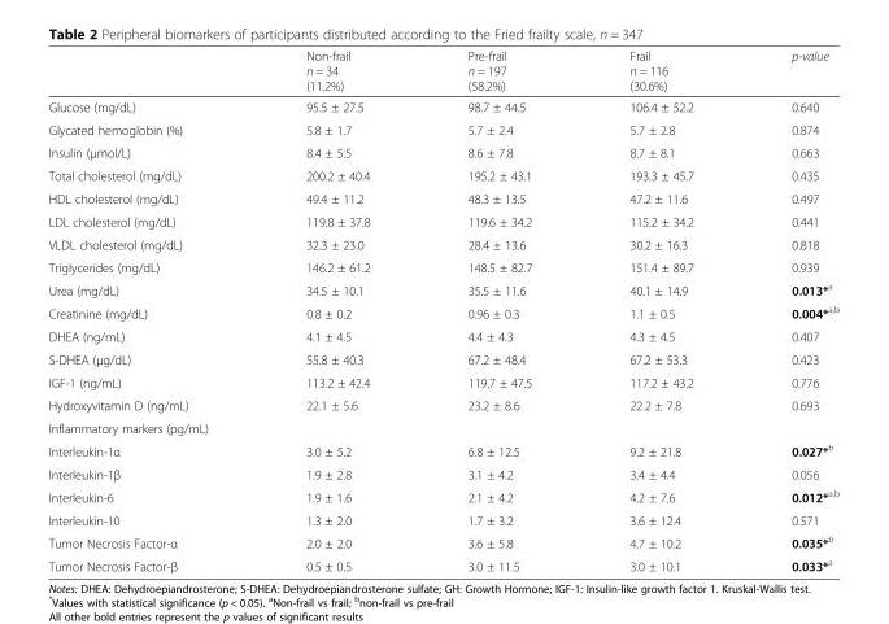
<table><thead><tr><td></td><td>Non-frail n = 34 (11.2%)</td><td>Pre-frail n = 197 (58.2%)</td><td>Frail n = 116 (30.6%)</td><td>p-value</td></tr></thead><tbody><tr><td>Glucose (mg/dL)</td><td>95.5 ± 27.5</td><td>98.7 ± 44.5</td><td>106.4 ± 52.2</td><td>0.640</td></tr><tr><td>Glycated hemoglobin (%)</td><td>5.8 ± 1.7</td><td>5.7 ± 2.4</td><td>5.7 ± 2.8</td><td>0.874</td></tr><tr><td>Insulin (μmol/L)</td><td>8.4 ± 5.5</td><td>8.6 ± 7.8</td><td>8.7 ± 8.1</td><td>0.663</td></tr><tr><td>Total cholesterol (mg/dL)</td><td>200.2 ± 40.4</td><td>195.2 ± 43.1</td><td>193.3 ± 45.7</td><td>0.435</td></tr><tr><td>HDL cholesterol (mg/dL)</td><td>49.4 ± 11.2</td><td>48.3 ± 13.5</td><td>47.2 ± 11.6</td><td>0.497</td></tr><tr><td>LDL cholesterol (mg/dL)</td><td>119.8 ± 37.8</td><td>119.6 ± 34.2</td><td>115.2 ± 34.2</td><td>0.441</td></tr><tr><td>VLDL cholesterol (mg/dL)</td><td>32.3 ± 23.0</td><td>28.4 ± 13.6</td><td>30.2 ± 16.3</td><td>0.818</td></tr><tr><td>Triglycerides (mg/dL)</td><td>146.2 ± 61.2</td><td>148.5 ± 82.7</td><td>151.4 ± 89.7</td><td>0.939</td></tr><tr><td>Urea (mg/dL)</td><td>34.5 ± 10.1</td><td>35.5 ± 11.6</td><td>40.1 ± 14.9</td><td>0.013*<sup>a</sup></td></tr><tr><td>Creatinine (mg/dL)</td><td>0.8 ± 0.2</td><td>0.96 ± 0.3</td><td>1.1 ± 0.5</td><td>0.004*<sup>a,b</sup></td></tr><tr><td>DHEA (ng/mL)</td><td>4.1 ± 4.5</td><td>4.4 ± 4.3</td><td>4.3 ± 4.5</td><td>0.407</td></tr><tr><td>S-DHEA (μg/dL)</td><td>55.8 ± 40.3</td><td>67.2 ± 48.4</td><td>67.2 ± 53.3</td><td>0.423</td></tr><tr><td>IGF-1 (ng/mL)</td><td>113.2 ± 42.4</td><td>119.7 ± 47.5</td><td>117.2 ± 43.2</td><td>0.776</td></tr><tr><td>Hydroxyvitamin D (ng/mL)</td><td>22.1 ± 5.6</td><td>23.2 ± 8.6</td><td>22.2 ± 7.8</td><td>0.693</td></tr><tr><td colspan="5">Inflammatory markers (pg/mL)</td></tr><tr><td>Interleukin-1α</td><td>3.0 ± 5.2</td><td>6.8 ± 12.5</td><td>9.2 ± 21.8</td><td>0.027*<sup>b</sup></td></tr><tr><td>Interleukin-1β</td><td>1.9 ± 2.8</td><td>3.1 ± 4.2</td><td>3.4 ± 4.4</td><td>0.056</td></tr><tr><td>Interleukin-6</td><td>1.9 ± 1.6</td><td>2.1 ± 4.2</td><td>4.2 ± 7.6</td><td>0.012*<sup>a,b</sup></td></tr><tr><td>Interleukin-10</td><td>1.3 ± 2.0</td><td>1.7 ± 3.2</td><td>3.6 ± 12.4</td><td>0.571</td></tr><tr><td>Tumor Necrosis Factor-α</td><td>2.0 ± 2.0</td><td>3.6 ± 5.8</td><td>4.7 ± 10.2</td><td>0.035*<sup>b</sup></td></tr><tr><td>Tumor Necrosis Factor-β</td><td>0.5 ± 0.5</td><td>3.0 ± 11.5</td><td>3.0 ± 10.1</td><td>0.033*<sup>a</sup></td></tr></tbody></table>